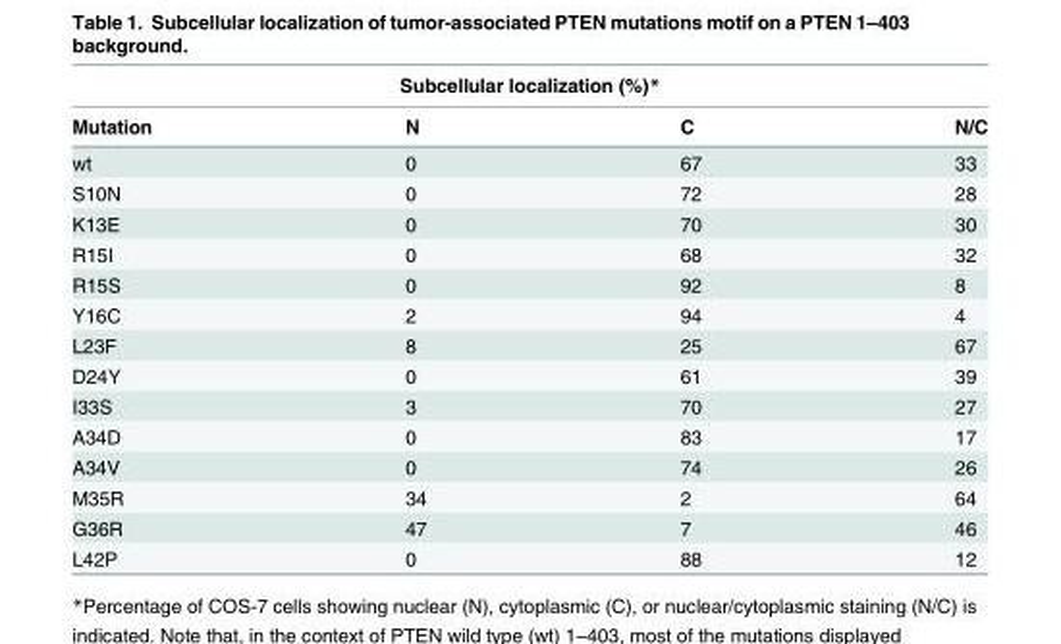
<table><thead><tr><td colspan="4">Subcellular localization (%)*</td></tr><tr><td>Mutation</td><td>N</td><td>C</td><td>N/C</td></tr></thead><tbody><tr><td>wt</td><td>0</td><td>67</td><td>33</td></tr><tr><td>S10N</td><td>0</td><td>72</td><td>28</td></tr><tr><td>K13E</td><td>0</td><td>70</td><td>30</td></tr><tr><td>R15I</td><td>0</td><td>68</td><td>32</td></tr><tr><td>R15S</td><td>0</td><td>92</td><td>8</td></tr><tr><td>Y16C</td><td>2</td><td>94</td><td>4</td></tr><tr><td>L23F</td><td>8</td><td>25</td><td>67</td></tr><tr><td>D24Y</td><td>0</td><td>61</td><td>39</td></tr><tr><td>I33S</td><td>3</td><td>70</td><td>27</td></tr><tr><td>A34D</td><td>0</td><td>83</td><td>17</td></tr><tr><td>A34V</td><td>0</td><td>74</td><td>26</td></tr><tr><td>M35R</td><td>34</td><td>2</td><td>64</td></tr><tr><td>G36R</td><td>47</td><td>7</td><td>46</td></tr><tr><td>L42P</td><td>0</td><td>88</td><td>12</td></tr></tbody></table>